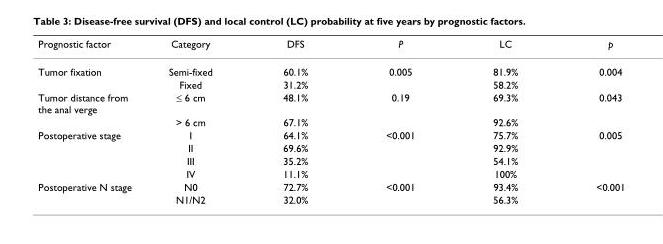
<table><thead><tr><td>Prognostic factor</td><td>Category</td><td>DFS</td><td>P</td><td>LC</td><td>p</td></tr></thead><tbody><tr><td rowspan="2">Tumor fixation</td><td>Semi-fixed</td><td>60.1%</td><td>0.005</td><td>81.9%</td><td>0.004</td></tr><tr><td>Fixed</td><td>31.2%</td><td></td><td>58.2%</td><td></td></tr><tr><td rowspan="2">Tumor distance from the anal verge</td><td>≤ 6 cm</td><td>48.1%</td><td>0.19</td><td>69.3%</td><td>0.043</td></tr><tr><td>&gt; 6 cm</td><td>67.1%</td><td></td><td>92.6%</td><td></td></tr><tr><td rowspan="4">Postoperative stage</td><td>I</td><td>64.1%</td><td>&lt;0.001</td><td>75.7%</td><td>0.005</td></tr><tr><td>II</td><td>69.6%</td><td></td><td>92.9%</td><td></td></tr><tr><td>III</td><td>35.2%</td><td></td><td>54.1%</td><td></td></tr><tr><td>IV</td><td>11.1%</td><td></td><td>100%</td><td></td></tr><tr><td rowspan="2">Postoperative N stage</td><td>N0</td><td>72.7%</td><td>&lt;0.001</td><td>93.4%</td><td>&lt;0.001</td></tr><tr><td>N1/N2</td><td>32.0%</td><td></td><td>56.3%</td><td></td></tr></tbody></table>